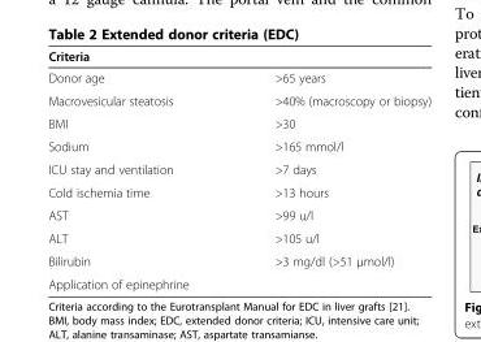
<table><thead><tr><td>Criteria</td><td></td></tr></thead><tbody><tr><td>Donor age</td><td>&gt;65 years</td></tr><tr><td>Macrovesicular steatosis</td><td>&gt;40% (macroscopy or biopsy)</td></tr><tr><td>BMI</td><td>&gt;30</td></tr><tr><td>Sodium</td><td>&gt;165 mmol/l</td></tr><tr><td>ICU stay and ventilation</td><td>&gt;7 days</td></tr><tr><td>Cold ischemia time</td><td>&gt;13 hours</td></tr><tr><td>AST</td><td>&gt;99 u/l</td></tr><tr><td>ALT</td><td>&gt;105 u/l</td></tr><tr><td>Bilirubin</td><td>&gt;3 mg/dl (&gt;51 μmol/l)</td></tr><tr><td>Application of epinephrine</td><td></td></tr></tbody></table>